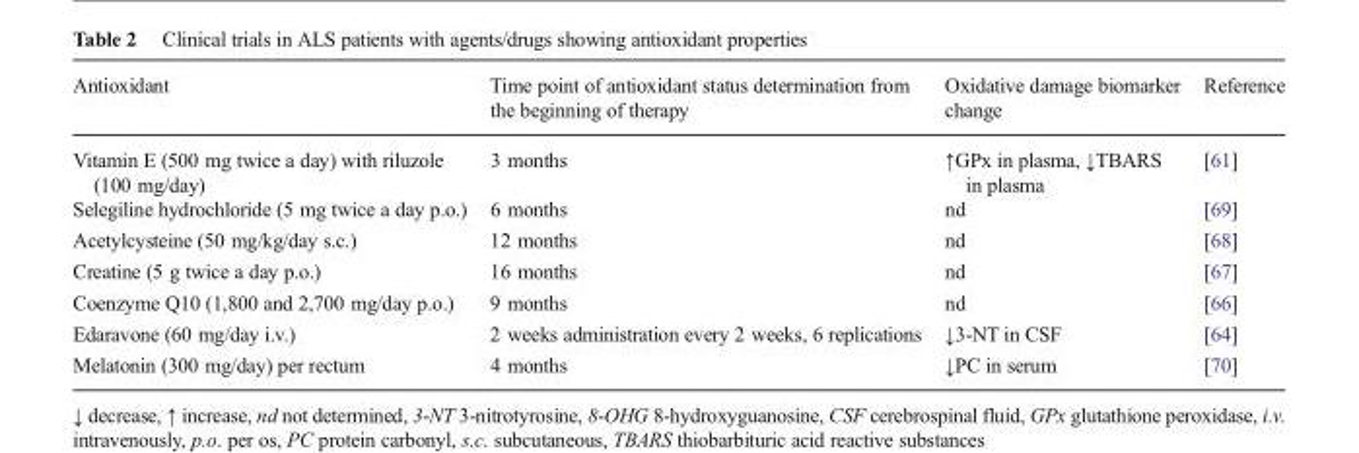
<table><thead><tr><td>Antioxidant</td><td>Time point of antioxidant status determination from the beginning of therapy</td><td>Oxidative damage biomarker change</td><td>Reference</td></tr></thead><tbody><tr><td>Vitamin E (500 mg twice a day) with riluzole (100 mg/day)</td><td>3 months</td><td>↑GPx in plasma, ↓TBARS in plasma</td><td>[61]</td></tr><tr><td>Selegiline hydrochloride (5 mg twice a day p.o.)</td><td>6 months</td><td>nd</td><td>[69]</td></tr><tr><td>Acetylcysteine (50 mg/kg/day s.c.)</td><td>12 months</td><td>nd</td><td>[68]</td></tr><tr><td>Creatine (5 g twice a day p.o.)</td><td>16 months</td><td>nd</td><td>[67]</td></tr><tr><td>Coenzyme Q10 (1,800 and 2,700 mg/day p.o.)</td><td>9 months</td><td>nd</td><td>[66]</td></tr><tr><td>Edaravone (60 mg/day i.v.)</td><td>2 weeks administration every 2 weeks, 6 replications</td><td>↓3-NT in CSF</td><td>[64]</td></tr><tr><td>Melatonin (300 mg/day) per rectum</td><td>4 months</td><td>↓PC in serum</td><td>[70]</td></tr></tbody></table>